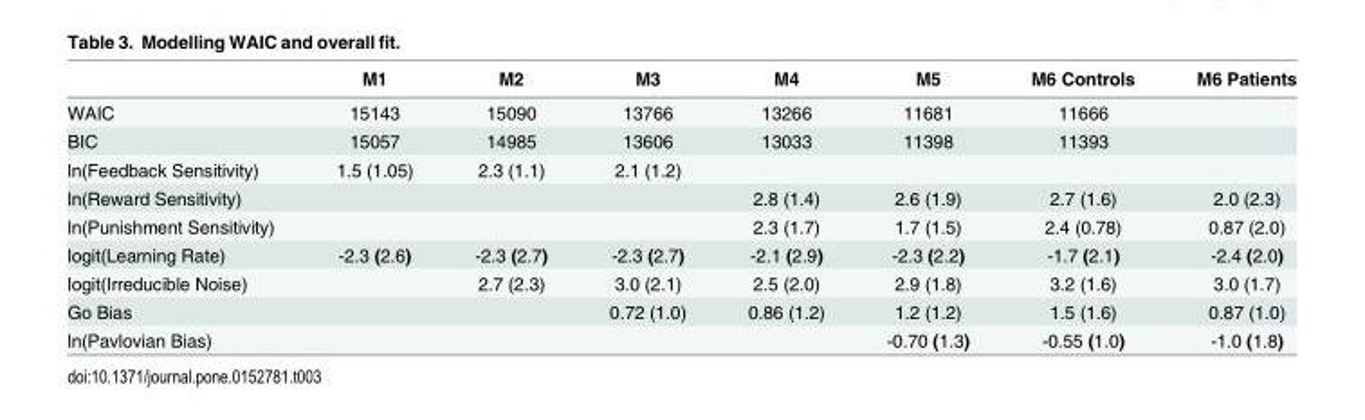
<table><thead><tr><td></td><td>M1</td><td>M2</td><td>M3</td><td>M4</td><td>M5</td><td>M6 Controls</td><td>M6 Patients</td></tr></thead><tbody><tr><td>WAIC</td><td>15143</td><td>15090</td><td>13766</td><td>13266</td><td>11681</td><td>11666</td><td></td></tr><tr><td>BIC</td><td>15057</td><td>14985</td><td>13606</td><td>13033</td><td>11398</td><td>11393</td><td></td></tr><tr><td>ln(Feedback Sensitivity)</td><td>1.5 (1.05)</td><td>2.3 (1.1)</td><td>2.1 (1.2)</td><td></td><td></td><td></td><td></td></tr><tr><td>ln(Reward Sensitivity)</td><td></td><td></td><td></td><td>2.8 (1.4)</td><td>2.6 (1.9)</td><td>2.7 (1.6)</td><td>2.0 (2.3)</td></tr><tr><td>ln(Punishment Sensitivity)</td><td></td><td></td><td></td><td>2.3 (1.7)</td><td>1.7 (1.5)</td><td>2.4 (0.78)</td><td>0.87 (2.0)</td></tr><tr><td>logit(Learning Rate)</td><td>-2.3 (2.6)</td><td>-2.3 (2.7)</td><td>-2.3 (2.7)</td><td>-2.1 (2.9)</td><td>-2.3 (2.2)</td><td>-1.7 (2.1)</td><td>-2.4 (2.0)</td></tr><tr><td>logit(Irreducible Noise)</td><td></td><td>2.7 (2.3)</td><td>3.0 (2.1)</td><td>2.5 (2.0)</td><td>2.9 (1.8)</td><td>3.2 (1.6)</td><td>3.0 (1.7)</td></tr><tr><td>Go Bias</td><td></td><td></td><td>0.72 (1.0)</td><td>0.86 (1.2)</td><td>1.2 (1.2)</td><td>1.5 (1.6)</td><td>0.87 (1.0)</td></tr><tr><td>ln(Pavlovian Bias)</td><td></td><td></td><td></td><td></td><td>-0.70 (1.3)</td><td>-0.55 (1.0)</td><td>-1.0 (1.8)</td></tr></tbody></table>